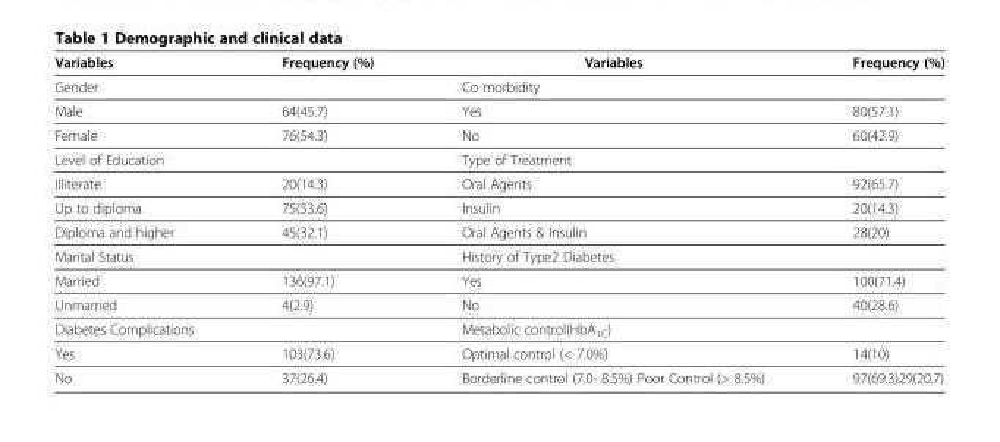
<table><thead><tr><td>Variables</td><td>Frequency (%)</td><td>Variables</td><td>Frequency (%)</td></tr></thead><tbody><tr><td>Gender</td><td></td><td>Co morbidity</td><td></td></tr><tr><td>Male</td><td>64(45.7)</td><td>Yes</td><td>80(57.1)</td></tr><tr><td>Female</td><td>76(54.3)</td><td>No</td><td>60(42.9)</td></tr><tr><td>Level of Education</td><td></td><td>Type of Treatment</td><td></td></tr><tr><td>Illiterate</td><td>20(14.3)</td><td>Oral Agents</td><td>92(65.7)</td></tr><tr><td>Up to diploma</td><td>75(53.6)</td><td>Insulin</td><td>20(14.3)</td></tr><tr><td>Diploma and higher</td><td>45(32.1)</td><td>Oral Agents &amp; Insulin</td><td>28(20)</td></tr><tr><td>Marital Status</td><td></td><td>History of Type2 Diabetes</td><td></td></tr><tr><td>Married</td><td>136(97.1)</td><td>Yes</td><td>100(71.4)</td></tr><tr><td>Unmarried</td><td>4(2.9)</td><td>No</td><td>40(28.6)</td></tr><tr><td>Diabetes Complications</td><td></td><td>Metabolic control(HbA<sub>1C</sub>)</td><td></td></tr><tr><td>Yes</td><td>103(73.6)</td><td>Optimal control (&lt; 7.0%)</td><td>14(10)</td></tr><tr><td>No</td><td>37(26.4)</td><td>Borderline control (7.0- 8.5%) Poor Control (&gt; 8.5%)</td><td>97(69.3)29(20.7)</td></tr></tbody></table>